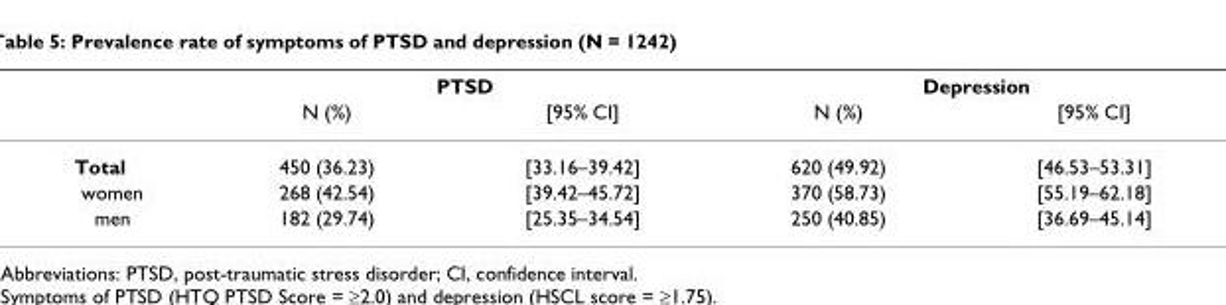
<table><thead><tr><td rowspan="2"></td><td colspan="2">PTSD</td><td colspan="2">Depression</td></tr><tr><td>N (%)</td><td>[95% CI]</td><td>N (%)</td><td>[95% CI]</td></tr></thead><tbody><tr><td>Total</td><td>450 (36.23)</td><td>[33.16–39.42]</td><td>620 (49.92)</td><td>[46.53–53.31]</td></tr><tr><td>women</td><td>268 (42.54)</td><td>[39.42–45.72]</td><td>370 (58.73)</td><td>[55.19–62.18]</td></tr><tr><td>men</td><td>182 (29.74)</td><td>[25.35–34.54]</td><td>250 (40.85)</td><td>[36.69–45.14]</td></tr></tbody></table>